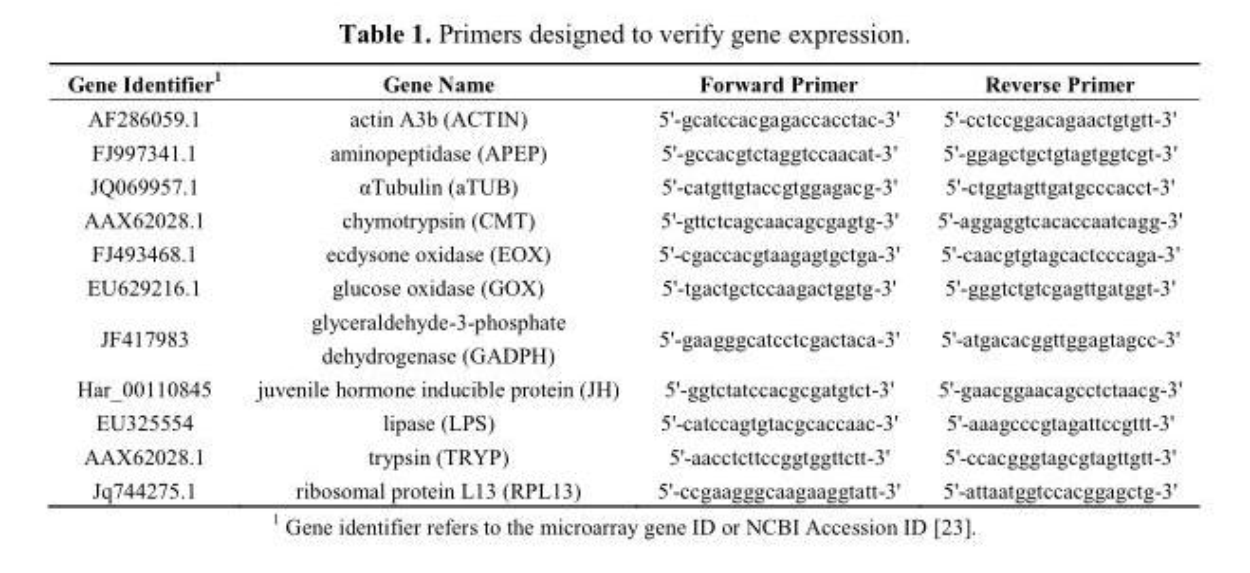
<table><thead><tr><td>Gene Identifier<sup>1</sup></td><td>Gene Name</td><td>Forward Primer</td><td>Reverse Primer</td></tr></thead><tbody><tr><td>AF286059.1</td><td>actin A3b (ACTIN)</td><td>5&#x27;-gcatccacgagaccacctac-3&#x27;</td><td>5&#x27;-cctccggacagaactgtgtt-3&#x27;</td></tr><tr><td>FJ997341.1</td><td>aminopeptidase (APEP)</td><td>5&#x27;-gccacgtctaggtccaacat-3&#x27;</td><td>5&#x27;-ggagctgctgtagtggtcgt-3&#x27;</td></tr><tr><td>JQ069957.1</td><td>αTubulin (aTUB)</td><td>5&#x27;-catgttgtaccgtggagacg-3&#x27;</td><td>5&#x27;-ctggtagttgatgcccacct-3&#x27;</td></tr><tr><td>AAX62028.1</td><td>chymotrypsin (CMT)</td><td>5&#x27;-gttctcagcaacagcgagtg-3&#x27;</td><td>5&#x27;-aggaggtcacaccaatcagg-3&#x27;</td></tr><tr><td>FJ493468.1</td><td>ecdysone oxidase (EOX)</td><td>5&#x27;-cgaccacgtaagagtgctga-3&#x27;</td><td>5&#x27;-caacgtgtagcactcccaga-3&#x27;</td></tr><tr><td>EU629216.1</td><td>glucose oxidase (GOX)</td><td>5&#x27;-tgactgctccaagactggtg-3&#x27;</td><td>5&#x27;-gggtctgtcgagttgatggt-3&#x27;</td></tr><tr><td>JF417983</td><td>glyceraldehyde-3-phosphate dehydrogenase (GADPH)</td><td>5&#x27;-gaagggcatcctcgactaca-3&#x27;</td><td>5&#x27;-atgacacggttggagtagcc-3&#x27;</td></tr><tr><td>Har_00110845</td><td>juvenile hormone inducible protein (JH)</td><td>5&#x27;-ggtctatccacgcgatgtct-3&#x27;</td><td>5&#x27;-gaacggaacagcctctaacg-3&#x27;</td></tr><tr><td>EU325554</td><td>lipase (LPS)</td><td>5&#x27;-catccagtgtacgcaccaac-3&#x27;</td><td>5&#x27;-aaagcccgtagattccgttt-3&#x27;</td></tr><tr><td>AAX62028.1</td><td>trypsin (TRYP)</td><td>5&#x27;-aacctcttccggtggttctt-3&#x27;</td><td>5&#x27;-ccacgggtagcgtagttgtt-3&#x27;</td></tr><tr><td>Jq744275.1</td><td>ribosomal protein L13 (RPL13)</td><td>5&#x27;-ccgaagggcaagaaggtatt-3&#x27;</td><td>5&#x27;-attaatggtccacggagctg-3&#x27;</td></tr></tbody></table>